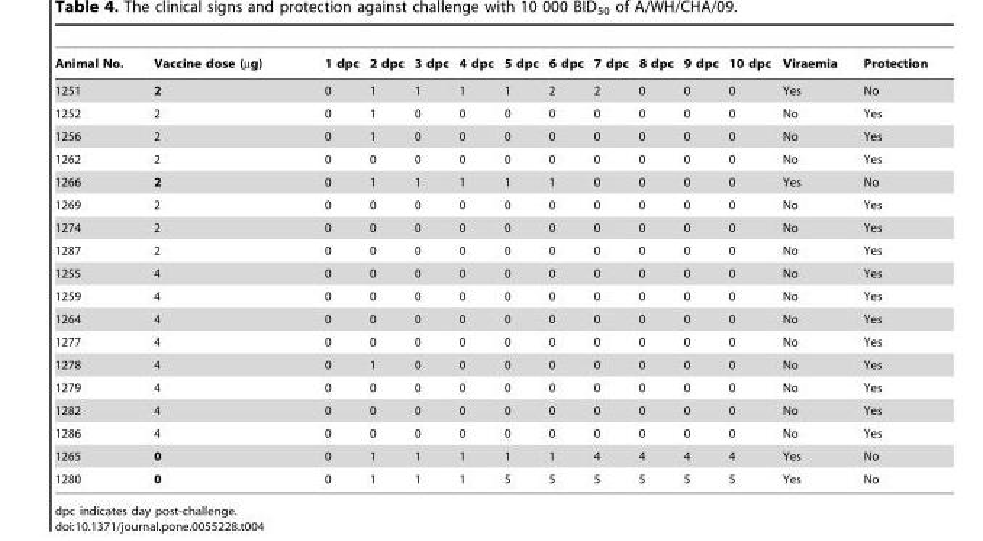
<table><thead><tr><td>Animal No.</td><td>Vaccine dose (µg)</td><td>1 dpc</td><td>2 dpc</td><td>3 dpc</td><td>4 dpc</td><td>5 dpc</td><td>6 dpc</td><td>7 dpc</td><td>8 dpc</td><td>9 dpc</td><td>10 dpc</td><td>Viraemia</td><td>Protection</td></tr></thead><tbody><tr><td>1251</td><td>2</td><td>0</td><td>1</td><td>1</td><td>1</td><td>1</td><td>2</td><td>2</td><td>0</td><td>0</td><td>0</td><td>Yes</td><td>No</td></tr><tr><td>1252</td><td>2</td><td>0</td><td>1</td><td>0</td><td>0</td><td>0</td><td>0</td><td>0</td><td>0</td><td>0</td><td>0</td><td>No</td><td>Yes</td></tr><tr><td>1256</td><td>2</td><td>0</td><td>1</td><td>0</td><td>0</td><td>0</td><td>0</td><td>0</td><td>0</td><td>0</td><td>0</td><td>No</td><td>Yes</td></tr><tr><td>1262</td><td>2</td><td>0</td><td>0</td><td>0</td><td>0</td><td>0</td><td>0</td><td>0</td><td>0</td><td>0</td><td>0</td><td>No</td><td>Yes</td></tr><tr><td>1266</td><td>2</td><td>0</td><td>1</td><td>1</td><td>1</td><td>1</td><td>1</td><td>0</td><td>0</td><td>0</td><td>0</td><td>Yes</td><td>No</td></tr><tr><td>1269</td><td>2</td><td>0</td><td>0</td><td>0</td><td>0</td><td>0</td><td>0</td><td>0</td><td>0</td><td>0</td><td>0</td><td>No</td><td>Yes</td></tr><tr><td>1274</td><td>2</td><td>0</td><td>0</td><td>0</td><td>0</td><td>0</td><td>0</td><td>0</td><td>0</td><td>0</td><td>0</td><td>No</td><td>Yes</td></tr><tr><td>1287</td><td>2</td><td>0</td><td>0</td><td>0</td><td>0</td><td>0</td><td>0</td><td>0</td><td>0</td><td>0</td><td>0</td><td>No</td><td>Yes</td></tr><tr><td>1255</td><td>4</td><td>0</td><td>0</td><td>0</td><td>0</td><td>0</td><td>0</td><td>0</td><td>0</td><td>0</td><td>0</td><td>No</td><td>Yes</td></tr><tr><td>1259</td><td>4</td><td>0</td><td>0</td><td>0</td><td>0</td><td>0</td><td>0</td><td>0</td><td>0</td><td>0</td><td>0</td><td>No</td><td>Yes</td></tr><tr><td>1264</td><td>4</td><td>0</td><td>0</td><td>0</td><td>0</td><td>0</td><td>0</td><td>0</td><td>0</td><td>0</td><td>0</td><td>No</td><td>Yes</td></tr><tr><td>1277</td><td>4</td><td>0</td><td>0</td><td>0</td><td>0</td><td>0</td><td>0</td><td>0</td><td>0</td><td>0</td><td>0</td><td>No</td><td>Yes</td></tr><tr><td>1278</td><td>4</td><td>0</td><td>1</td><td>0</td><td>0</td><td>0</td><td>0</td><td>0</td><td>0</td><td>0</td><td>0</td><td>No</td><td>Yes</td></tr><tr><td>1279</td><td>4</td><td>0</td><td>0</td><td>0</td><td>0</td><td>0</td><td>0</td><td>0</td><td>0</td><td>0</td><td>0</td><td>No</td><td>Yes</td></tr><tr><td>1282</td><td>4</td><td>0</td><td>0</td><td>0</td><td>0</td><td>0</td><td>0</td><td>0</td><td>0</td><td>0</td><td>0</td><td>No</td><td>Yes</td></tr><tr><td>1286</td><td>4</td><td>0</td><td>0</td><td>0</td><td>0</td><td>0</td><td>0</td><td>0</td><td>0</td><td>0</td><td>0</td><td>No</td><td>Yes</td></tr><tr><td>1265</td><td>0</td><td>0</td><td>1</td><td>1</td><td>1</td><td>1</td><td>1</td><td>4</td><td>4</td><td>4</td><td>4</td><td>Yes</td><td>No</td></tr><tr><td>1280</td><td>0</td><td>0</td><td>1</td><td>1</td><td>1</td><td>5</td><td>5</td><td>5</td><td>5</td><td>5</td><td>5</td><td>Yes</td><td>No</td></tr></tbody></table>